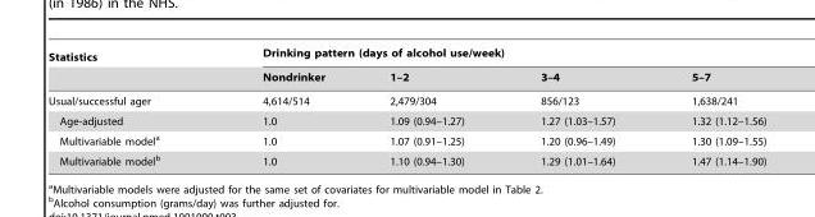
<table><thead><tr><td rowspan="2">Statistics</td><td colspan="4">Drinking pattern (days of alcohol use/week)</td></tr><tr><td>Nondrinker</td><td>1–2</td><td>3–4</td><td>5–7</td></tr></thead><tbody><tr><td>Usual/successful ager</td><td>4,614/514</td><td>2,479/304</td><td>856/123</td><td>1,638/241</td></tr><tr><td>Age-adjusted</td><td>1.0</td><td>1.09 (0.94–1.27)</td><td>1.27 (1.03–1.57)</td><td>1.32 (1.12–1.56)</td></tr><tr><td>Multivariable model<sup>a</sup></td><td>1.0</td><td>1.07 (0.91–1.25)</td><td>1.20 (0.96–1.49)</td><td>1.30 (1.09–1.55)</td></tr><tr><td>Multivariable model<sup>b</sup></td><td>1.0</td><td>1.10 (0.94–1.30)</td><td>1.29 (1.01–1.64)</td><td>1.47 (1.14–1.90)</td></tr></tbody></table>